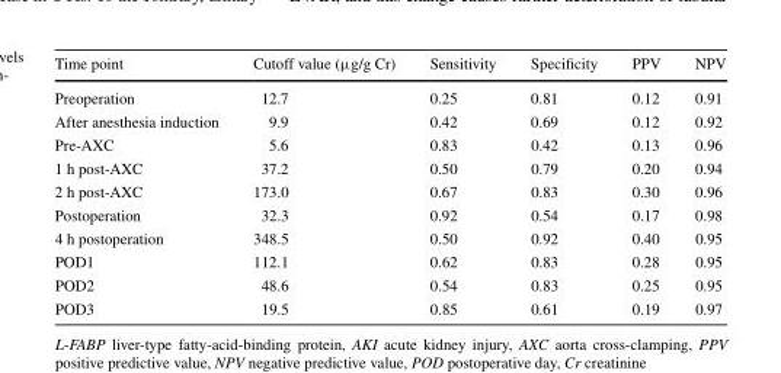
<table><thead><tr><td>Time point</td><td>Cutoff value (μg/g Cr)</td><td>Sensitivity</td><td>Specificity</td><td>PPV</td><td>NPV</td></tr></thead><tbody><tr><td>Preoperation</td><td>12.7</td><td>0.25</td><td>0.81</td><td>0.12</td><td>0.91</td></tr><tr><td>After anesthesia induction</td><td>9.9</td><td>0.42</td><td>0.69</td><td>0.12</td><td>0.92</td></tr><tr><td>Pre-AXC</td><td>5.6</td><td>0.83</td><td>0.42</td><td>0.13</td><td>0.96</td></tr><tr><td>1 h post-AXC</td><td>37.2</td><td>0.50</td><td>0.79</td><td>0.20</td><td>0.94</td></tr><tr><td>2 h post-AXC</td><td>173.0</td><td>0.67</td><td>0.83</td><td>0.30</td><td>0.96</td></tr><tr><td>Postoperation</td><td>32.3</td><td>0.92</td><td>0.54</td><td>0.17</td><td>0.98</td></tr><tr><td>4 h postoperation</td><td>348.5</td><td>0.50</td><td>0.92</td><td>0.40</td><td>0.95</td></tr><tr><td>POD1</td><td>112.1</td><td>0.62</td><td>0.83</td><td>0.28</td><td>0.95</td></tr><tr><td>POD2</td><td>48.6</td><td>0.54</td><td>0.83</td><td>0.25</td><td>0.95</td></tr><tr><td>POD3</td><td>19.5</td><td>0.85</td><td>0.61</td><td>0.19</td><td>0.97</td></tr></tbody></table>